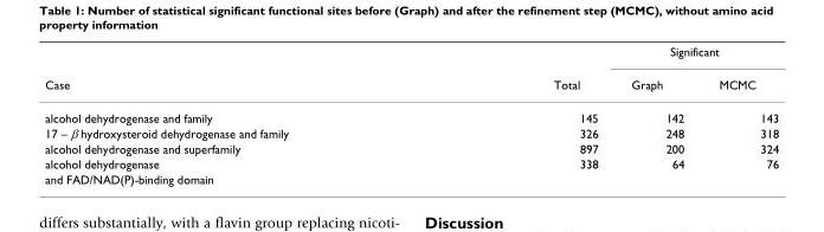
<table><thead><tr><td rowspan="2">Case</td><td rowspan="2">Total</td><td colspan="2">Significant</td></tr><tr><td>Graph</td><td>MCMC</td></tr></thead><tbody><tr><td>alcohol dehydrogenase and family</td><td>145</td><td>142</td><td>143</td></tr><tr><td>17 – β hydroxysteroid dehydrogenase and family</td><td>326</td><td>248</td><td>318</td></tr><tr><td>alcohol dehydrogenase and superfamily</td><td>897</td><td>200</td><td>324</td></tr><tr><td>alcohol dehydrogenase</td><td>338</td><td>64</td><td>76</td></tr><tr><td>and FAD/NAD(P)-binding domain</td><td></td><td></td><td></td></tr></tbody></table>